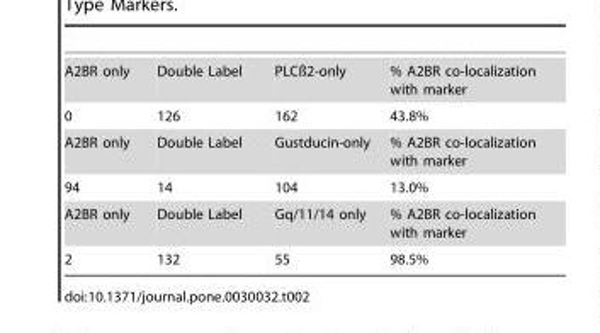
<table><tbody><tr><td>A2BR only</td><td>Double Label</td><td>PLCß2-only</td><td>% A2BR co-localization with marker</td></tr><tr><td>0</td><td>126</td><td>162</td><td>43.8%</td></tr><tr><td>A2BR only</td><td>Double Label</td><td>Gustducin-only</td><td>% A2BR co-localization with marker</td></tr><tr><td>94</td><td>14</td><td>104</td><td>13.0%</td></tr><tr><td>A2BR only</td><td>Double Label</td><td>Gq/11/14 only</td><td>% A2BR co-localization with marker</td></tr><tr><td>2</td><td>132</td><td>55</td><td>98.5%</td></tr></tbody></table>